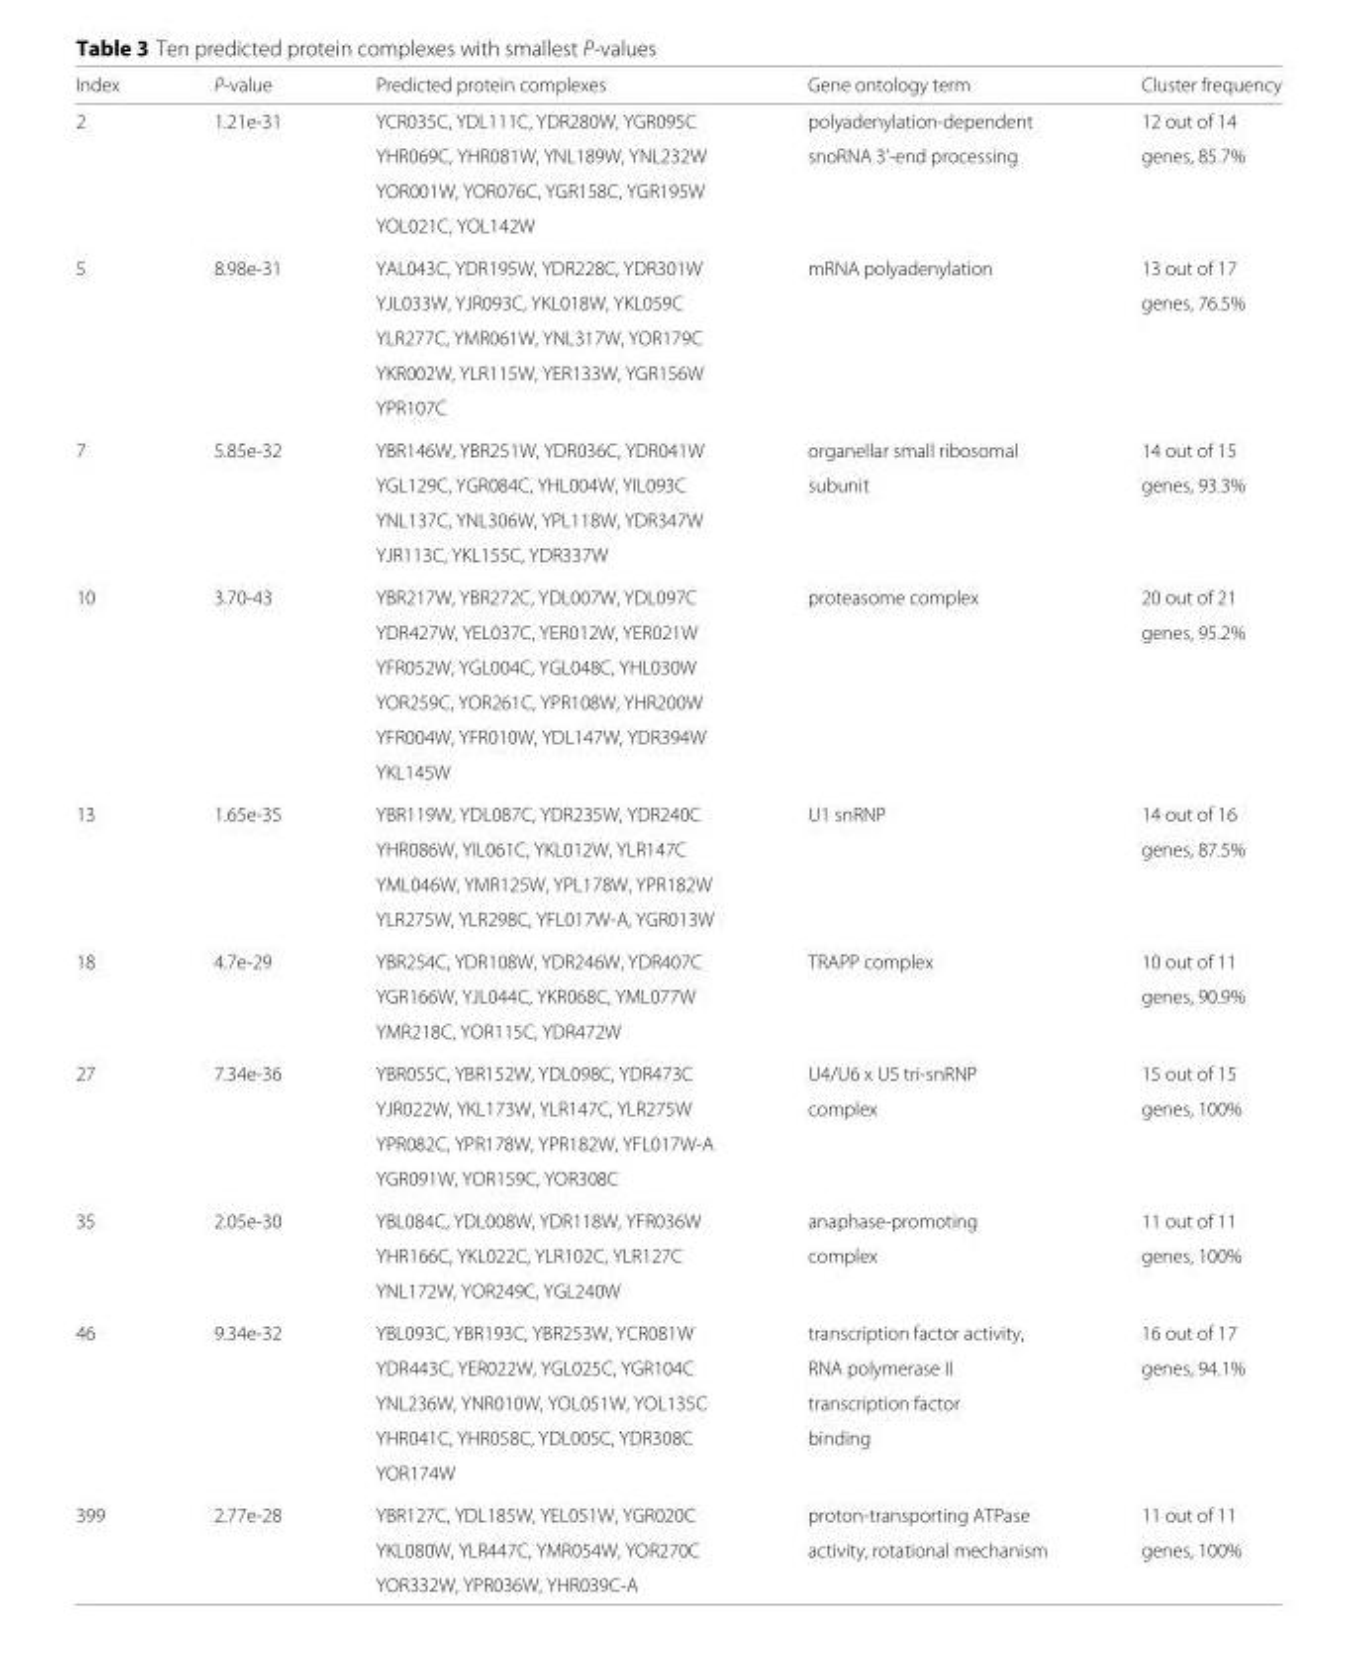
<table><thead><tr><td>Index</td><td>P-value</td><td>Predicted protein complexes</td><td>Gene ontology term</td><td>Cluster frequency</td></tr></thead><tbody><tr><td rowspan="4">2</td><td>1.21e-31</td><td>YCR035C, YDL111C, YDR280W, YGR095C</td><td>polyadenylation-dependent</td><td>12 out of 14</td></tr><tr><td></td><td>YHR069C, YHR081W, YNL189W, YNL232W</td><td>snoRNA 3’-end processing</td><td>genes, 85.7%</td></tr><tr><td></td><td>YOR001W, YOR076C, YGR158C, YGR195W</td><td></td><td></td></tr><tr><td></td><td>YOL021C, YOL142W</td><td></td><td></td></tr><tr><td rowspan="5">5</td><td>8.98e-31</td><td>YAL043C, YDR195W, YDR228C, YDR301W</td><td>mRNA polyadenylation</td><td>13 out of 17</td></tr><tr><td></td><td>YJL033W, YJR093C, YKL018W, YKL059C</td><td></td><td>genes, 76.5%</td></tr><tr><td></td><td>YLR277C, YMR061W, YNL317W, YOR179C</td><td></td><td></td></tr><tr><td></td><td>YKR002W, YLR115W, YER133W, YGR156W</td><td></td><td></td></tr><tr><td></td><td>YPR107C</td><td></td><td></td></tr><tr><td rowspan="4">7</td><td>5.85e-32</td><td>YBR146W, YBR251W, YDR036C, YDR041W</td><td>organellar small ribosomal</td><td>14 out of 15</td></tr><tr><td></td><td>YGL129C, YGR084C, YHL004W, YIL093C</td><td>subunit</td><td>genes, 93.3%</td></tr><tr><td></td><td>YNL137C, YNL306W, YPL118W, YDR347W</td><td></td><td></td></tr><tr><td></td><td>YJR113C, YKL155C, YDR337W</td><td></td><td></td></tr><tr><td rowspan="6">10</td><td>3.70-43</td><td>YBR217W, YBR272C, YDL007W, YDL097C</td><td>proteasome complex</td><td>20 out of 21</td></tr><tr><td></td><td>YDR427W, YEL037C, YER012W, YER021W</td><td></td><td>genes, 95.2%</td></tr><tr><td></td><td>YFR052W, YGL004C, YGL048C, YHL030W</td><td></td><td></td></tr><tr><td></td><td>YOR259C, YOR261C, YPR108W, YHR200W</td><td></td><td></td></tr><tr><td></td><td>YFR004W, YFR010W, YDL147W, YDR394W</td><td></td><td></td></tr><tr><td></td><td>YKL145W</td><td></td><td></td></tr><tr><td rowspan="4">13</td><td>1.65e-35</td><td>YBR119W, YDL087C, YDR235W, YDR240C</td><td>U1 snRNP</td><td>14 out of 16</td></tr><tr><td></td><td>YHR086W, YIL061C, YKL012W, YLR147C</td><td></td><td>genes, 87.5%</td></tr><tr><td></td><td>YML046W, YMR125W, YPL178W, YPR182W</td><td></td><td></td></tr><tr><td></td><td>YLR275W, YLR298C, YFL017W-A, YGR013W</td><td></td><td></td></tr><tr><td rowspan="3">18</td><td>4.7e-29</td><td>YBR254C, YDR108W, YDR246W, YDR407C</td><td>TRAPP complex</td><td>10 out of 11</td></tr><tr><td></td><td>YGR166W, YJL044C, YKR068C, YML077W</td><td></td><td>genes, 90.9%</td></tr><tr><td></td><td>YMR218C, YOR115C, YDR472W</td><td></td><td></td></tr><tr><td rowspan="4">27</td><td>7.34e-36</td><td>YBR055C, YBR152W, YDL098C, YDR473C</td><td>U4/U6 x U5 tri-snRNP</td><td>15 out of 15</td></tr><tr><td></td><td>YJR022W, YKL173W, YLR147C, YLR275W</td><td>complex</td><td>genes, 100%</td></tr><tr><td></td><td>YPR082C, YPR178W, YPR182W, YFL017W-A</td><td></td><td></td></tr><tr><td></td><td>YGR091W, YOR159C, YOR308C</td><td></td><td></td></tr><tr><td rowspan="3">35</td><td>2.05e-30</td><td>YBL084C, YDL008W, YDR118W, YFR036W</td><td>anaphase-promoting</td><td>11 out of 11</td></tr><tr><td></td><td>YHR166C, YKL022C, YLR102C, YLR127C</td><td>complex</td><td>genes, 100%</td></tr><tr><td></td><td>YNL172W, YOR249C, YGL240W</td><td></td><td></td></tr><tr><td rowspan="5">46</td><td>9.34e-32</td><td>YBL093C, YBR193C, YBR253W, YCR081W</td><td>transcription factor activity,</td><td>16 out of 17</td></tr><tr><td></td><td>YDR443C, YER022W, YGL025C, YGR104C</td><td>RNA polymerase II</td><td>genes, 94.1%</td></tr><tr><td></td><td>YNL236W, YNR010W, YOL051W, YOL135C</td><td>transcription factor</td><td></td></tr><tr><td></td><td>YHR041C, YHR058C, YDL005C, YDR308C</td><td>binding</td><td></td></tr><tr><td></td><td>YOR174W</td><td></td><td></td></tr><tr><td rowspan="3">399</td><td>2.77e-28</td><td>YBR127C, YDL185W, YEL051W, YGR020C</td><td>proton-transporting ATPase</td><td>11 out of 11</td></tr><tr><td></td><td>YKL080W, YLR447C, YMR054W, YOR270C</td><td>activity, rotational mechanism</td><td>genes, 100%</td></tr><tr><td></td><td>YOR332W, YPR036W, YHR039C-A</td><td></td><td></td></tr></tbody></table>